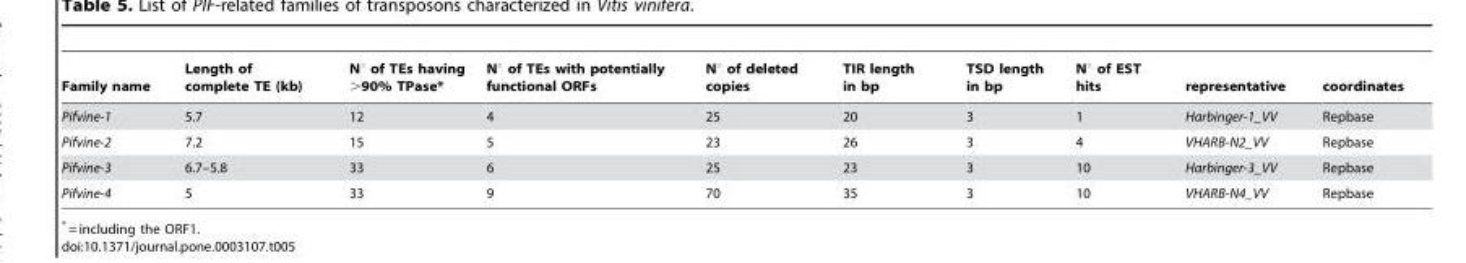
<table><thead><tr><td>Family name</td><td>Length of complete TE (kb)</td><td>N° of TEs having &gt;90% TPase*</td><td>N° of TEs with potentially functional ORFs</td><td>N° of deleted copies</td><td>TIR length in bp</td><td>TSD length in bp</td><td>N° of EST hits</td><td>representative</td><td>coordinates</td></tr></thead><tbody><tr><td>Pifvine-1</td><td>5.7</td><td>12</td><td>4</td><td>25</td><td>20</td><td>3</td><td>1</td><td>Harbinger-1_VV</td><td>Repbase</td></tr><tr><td>Pifvine-2</td><td>7.2</td><td>15</td><td>5</td><td>23</td><td>26</td><td>3</td><td>4</td><td>VHARB-N2_VV</td><td>Repbase</td></tr><tr><td>Pifvine-3</td><td>6.7–5.8</td><td>33</td><td>6</td><td>25</td><td>23</td><td>3</td><td>10</td><td>Harbinger-3_VV</td><td>Repbase</td></tr><tr><td>Pifvine-4</td><td>5</td><td>33</td><td>9</td><td>70</td><td>35</td><td>3</td><td>10</td><td>VHARB-N4_VV</td><td>Repbase</td></tr></tbody></table>